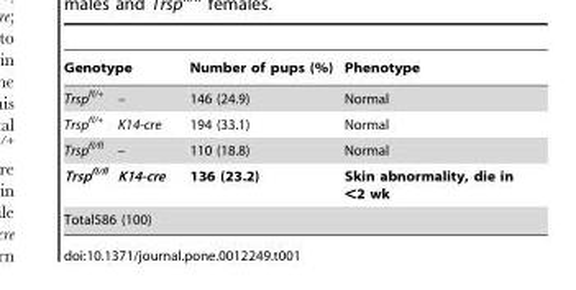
<table><thead><tr><td>Genotype</td><td>Number of pups (%)</td><td>Phenotype</td></tr></thead><tbody><tr><td>Trsp<sup>fl/+</sup> –</td><td>146 (24.9)</td><td>Normal</td></tr><tr><td>Trsp<sup>fl/+</sup> K14-cre</td><td>194 (33.1)</td><td>Normal</td></tr><tr><td>Trsp<sup>fl/fl</sup> –</td><td>110 (18.8)</td><td>Normal</td></tr><tr><td>Trspfl/fl K14-cre</td><td>136 (23.2)</td><td>Skin abnormality, die in &lt;2 wk</td></tr><tr><td colspan="3">Total586 (100)</td></tr></tbody></table>